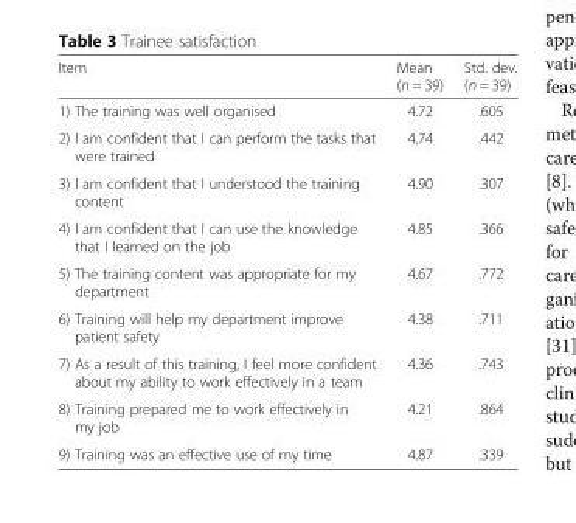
<table><thead><tr><td>Item</td><td>Mean (n = 39)</td><td>Std. dev. (n = 39)</td></tr></thead><tbody><tr><td>1) The training was well organised</td><td>4.72</td><td>.605</td></tr><tr><td>2) I am confident that I can perform the tasks that were trained</td><td>4.74</td><td>.442</td></tr><tr><td>3) I am confident that I understood the training content</td><td>4.90</td><td>.307</td></tr><tr><td>4) I am confident that I can use the knowledge that I learned on the job</td><td>4.85</td><td>.366</td></tr><tr><td>5) The training content was appropriate for my department</td><td>4.67</td><td>.772</td></tr><tr><td>6) Training will help my department improve patient safety</td><td>4.38</td><td>.711</td></tr><tr><td>7) As a result of this training, I feel more confident about my ability to work effectively in a team</td><td>4.36</td><td>.743</td></tr><tr><td>8) Training prepared me to work effectively in my job</td><td>4.21</td><td>.864</td></tr><tr><td>9) Training was an effective use of my time</td><td>4.87</td><td>.339</td></tr></tbody></table>